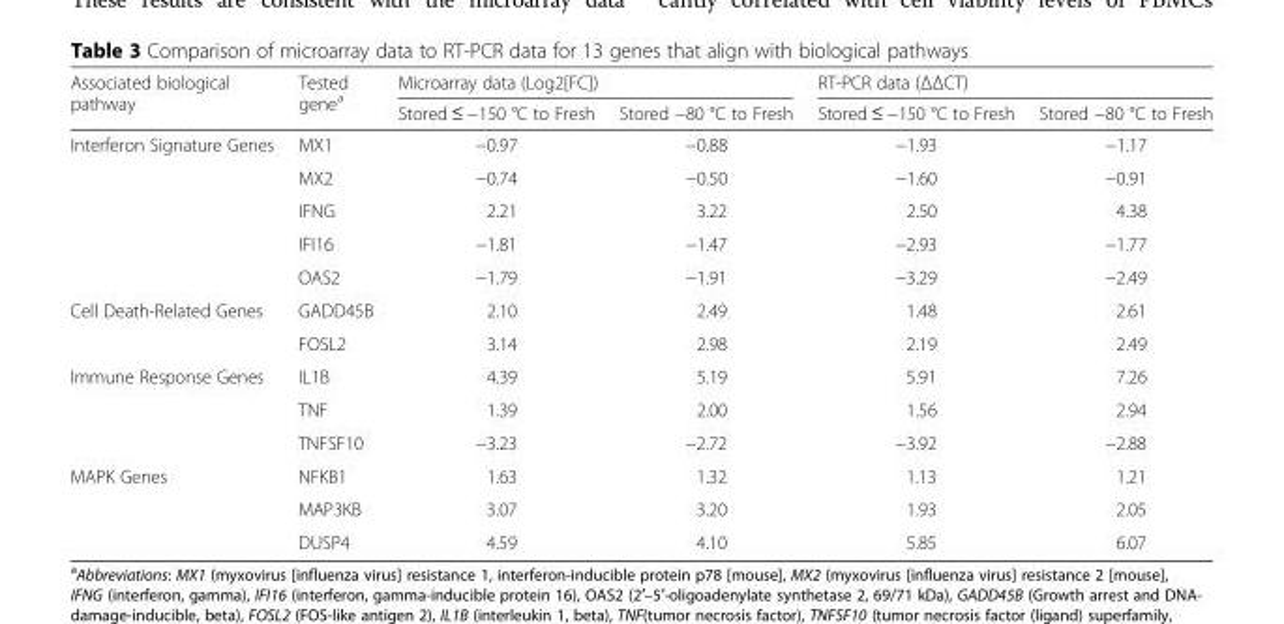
<table><thead><tr><td rowspan="2">Associated biological pathway</td><td rowspan="2">Tested gene<sup>a</sup></td><td colspan="2">Microarray data (Log2[FC])</td><td colspan="2">RT-PCR data (ΔΔCT)</td></tr><tr><td>Stored ≤ −150 °C to Fresh</td><td>Stored −80 °C to Fresh</td><td>Stored ≤ −150 °C to Fresh</td><td>Stored −80 °C to Fresh</td></tr></thead><tbody><tr><td rowspan="5">Interferon Signature Genes</td><td>MX1</td><td>−0.97</td><td>−0.88</td><td>−1.93</td><td>−1.17</td></tr><tr><td>MX2</td><td>−0.74</td><td>−0.50</td><td>−1.60</td><td>−0.91</td></tr><tr><td>IFNG</td><td>2.21</td><td>3.22</td><td>2.50</td><td>4.38</td></tr><tr><td>IFI16</td><td>−1.81</td><td>−1.47</td><td>−2.93</td><td>−1.77</td></tr><tr><td>OAS2</td><td>−1.79</td><td>−1.91</td><td>−3.29</td><td>−2.49</td></tr><tr><td rowspan="2">Cell Death-Related Genes</td><td>GADD45B</td><td>2.10</td><td>2.49</td><td>1.48</td><td>2.61</td></tr><tr><td>FOSL2</td><td>3.14</td><td>2.98</td><td>2.19</td><td>2.49</td></tr><tr><td rowspan="3">Immune Response Genes</td><td>IL1B</td><td>4.39</td><td>5.19</td><td>5.91</td><td>7.26</td></tr><tr><td>TNF</td><td>1.39</td><td>2.00</td><td>1.56</td><td>2.94</td></tr><tr><td>TNFSF10</td><td>−3.23</td><td>−2.72</td><td>−3.92</td><td>−2.88</td></tr><tr><td rowspan="3">MAPK Genes</td><td>NFKB1</td><td>1.63</td><td>1.32</td><td>1.13</td><td>1.21</td></tr><tr><td>MAP3KB</td><td>3.07</td><td>3.20</td><td>1.93</td><td>2.05</td></tr><tr><td>DUSP4</td><td>4.59</td><td>4.10</td><td>5.85</td><td>6.07</td></tr></tbody></table>